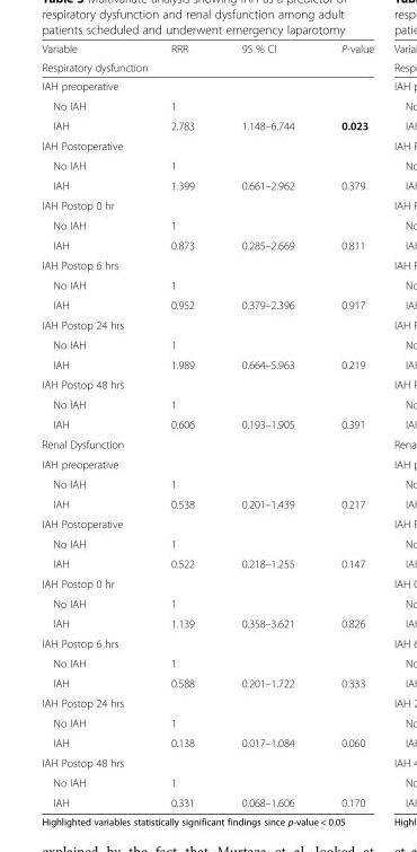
<table><thead><tr><td>Variable</td><td>RRR</td><td>95 % CI</td><td>P-value</td></tr><tr><td colspan="4">Respiratory dysfunction</td></tr></thead><tbody><tr><td colspan="4">IAH preoperative</td></tr><tr><td>No IAH</td><td>1</td><td></td><td></td></tr><tr><td>IAH</td><td>2.783</td><td>1.148–6.744</td><td>0.023</td></tr><tr><td colspan="4">IAH Postoperative</td></tr><tr><td>No IAH</td><td>1</td><td></td><td></td></tr><tr><td>IAH</td><td>1.399</td><td>0.661–2.962</td><td>0.379</td></tr><tr><td colspan="4">IAH Postop 0 hr</td></tr><tr><td>No IAH</td><td>1</td><td></td><td></td></tr><tr><td>IAH</td><td>0.873</td><td>0.285–2.669</td><td>0.811</td></tr><tr><td colspan="4">IAH Postop 6 hrs</td></tr><tr><td>No IAH</td><td>1</td><td></td><td></td></tr><tr><td>IAH</td><td>0.952</td><td>0.379–2.396</td><td>0.917</td></tr><tr><td colspan="4">IAH Postop 24 hrs</td></tr><tr><td>No IAH</td><td>1</td><td></td><td></td></tr><tr><td>IAH</td><td>1.989</td><td>0.664–5.963</td><td>0.219</td></tr><tr><td colspan="4">IAH Postop 48 hrs</td></tr><tr><td>No IAH</td><td>1</td><td></td><td></td></tr><tr><td>IAH</td><td>0.606</td><td>0.193–1.905</td><td>0.391</td></tr><tr><td colspan="4">Renal Dysfunction</td></tr><tr><td colspan="4">IAH preoperative</td></tr><tr><td>No IAH</td><td>1</td><td></td><td></td></tr><tr><td>IAH</td><td>0.538</td><td>0.201–1.439</td><td>0.217</td></tr><tr><td colspan="4">IAH Postoperative</td></tr><tr><td>No IAH</td><td>1</td><td></td><td></td></tr><tr><td>IAH</td><td>0.522</td><td>0.218–1.255</td><td>0.147</td></tr><tr><td colspan="4">IAH Postop 0 hr</td></tr><tr><td>No IAH</td><td>1</td><td></td><td></td></tr><tr><td>IAH</td><td>1.139</td><td>0.358–3.621</td><td>0.826</td></tr><tr><td colspan="4">IAH Postop 6 hrs</td></tr><tr><td>No IAH</td><td>1</td><td></td><td></td></tr><tr><td>IAH</td><td>0.588</td><td>0.201–1.722</td><td>0.333</td></tr><tr><td colspan="4">IAH Postop 24 hrs</td></tr><tr><td>No IAH</td><td>1</td><td></td><td></td></tr><tr><td>IAH</td><td>0.138</td><td>0.017–1.084</td><td>0.060</td></tr><tr><td colspan="4">IAH Postop 48 hrs</td></tr><tr><td>No IAH</td><td>1</td><td></td><td></td></tr><tr><td>IAH</td><td>0.331</td><td>0.068–1.606</td><td>0.170</td></tr></tbody></table>